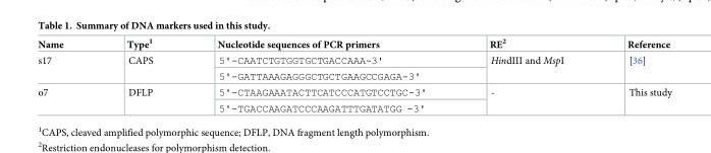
<table><thead><tr><td>Name</td><td>Type<sup>1</sup></td><td>Nucleotide sequences of PCR primers</td><td>RE<sup>2</sup></td><td>Reference</td></tr></thead><tbody><tr><td rowspan="2">s17</td><td rowspan="2">CAPS</td><td>5&#x27;-CAATCTGTGGTGCTGACCAAA-3&#x27;</td><td rowspan="2">HindIII and MspI</td><td rowspan="2">[36]</td></tr><tr><td>5&#x27;-GATTAAAGAGGGCTGCTGAAGCCGAGA-3&#x27;</td></tr><tr><td rowspan="2">o7</td><td rowspan="2">DFLP</td><td>5&#x27;-CTAAGAAATACTTCATCCCATGTCCTGC-3&#x27;</td><td rowspan="2">-</td><td rowspan="2">This study</td></tr><tr><td>5&#x27;-TGACCAAGATCCCAAGATTTGATATGG -3&#x27;</td></tr></tbody></table>